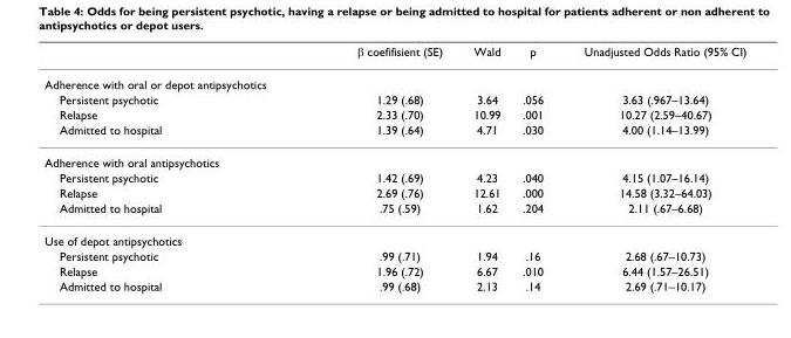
<table><thead><tr><td></td><td>β coefifisient (SE)</td><td>Wald</td><td>p</td><td>Unadjusted Odds Ratio (95% CI)</td></tr></thead><tbody><tr><td colspan="5">Adherence with oral or depot antipsychotics</td></tr><tr><td>Persistent psychotic</td><td>1.29 (.68)</td><td>3.64</td><td>.056</td><td>3.63 (.967–13.64)</td></tr><tr><td>Relapse</td><td>2.33 (.70)</td><td>10.99</td><td>.001</td><td>10.27 (2.59–40.67)</td></tr><tr><td>Admitted to hospital</td><td>1.39 (.64)</td><td>4.71</td><td>.030</td><td>4.00 (1.14–13.99)</td></tr><tr><td colspan="5">Adherence with oral antipsychotics</td></tr><tr><td>Persistent psychotic</td><td>1.42 (.69)</td><td>4.23</td><td>.040</td><td>4.15 (1.07–16.14)</td></tr><tr><td>Relapse</td><td>2.69 (.76)</td><td>12.61</td><td>.000</td><td>14.58 (3.32–64.03)</td></tr><tr><td>Admitted to hospital</td><td>.75 (.59)</td><td>1.62</td><td>.204</td><td>2.11 (.67–6.68)</td></tr><tr><td colspan="5">Use of depot antipsychotics</td></tr><tr><td>Persistent psychotic</td><td>.99 (.71)</td><td>1.94</td><td>.16</td><td>2.68 (.67–10.73)</td></tr><tr><td>Relapse</td><td>1.96 (.72)</td><td>6.67</td><td>.010</td><td>6.44 (1.57–26.51)</td></tr><tr><td>Admitted to hospital</td><td>.99 (.68)</td><td>2.13</td><td>.14</td><td>2.69 (.71–10.17)</td></tr></tbody></table>